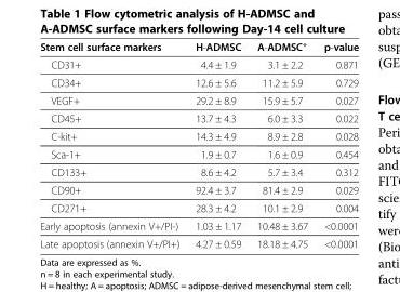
<table><thead><tr><td>Stem cell surface markers</td><td>H-ADMSC</td><td>A-ADMSC*</td><td>p-value</td></tr></thead><tbody><tr><td>CD31+</td><td>4.4 ± 1.9</td><td>3.1 ± 2.2</td><td>0.871</td></tr><tr><td>CD34+</td><td>12.6 ± 5.6</td><td>11.2 ± 5.9</td><td>0.729</td></tr><tr><td>VEGF+</td><td>29.2 ± 8.9</td><td>15.9 ± 5.7</td><td>0.027</td></tr><tr><td>CD45+</td><td>13.7 ± 4.3</td><td>6.0 ± 3.3</td><td>0.022</td></tr><tr><td>C-kit+</td><td>14.3 ± 4.9</td><td>8.9 ± 2.8</td><td>0.028</td></tr><tr><td>Sca-1+</td><td>1.9 ± 0.7</td><td>1.6 ± 0.9</td><td>0.454</td></tr><tr><td>CD133+</td><td>8.6 ± 4.2</td><td>5.7 ± 3.4</td><td>0.312</td></tr><tr><td>CD90+</td><td>92.4 ± 3.7</td><td>81.4 ± 2.9</td><td>0.029</td></tr><tr><td>CD271+</td><td>28.3 ± 4.2</td><td>10.1 ± 2.9</td><td>0.004</td></tr><tr><td>Early apoptosis (annexin V+/PI-)</td><td>1.03 ± 1.17</td><td>10.48 ± 3.67</td><td>&lt;0.0001</td></tr><tr><td>Late apoptosis (annexin V+/PI+)</td><td>4.27 ± 0.59</td><td>18.18 ± 4.75</td><td>&lt;0.0001</td></tr></tbody></table>